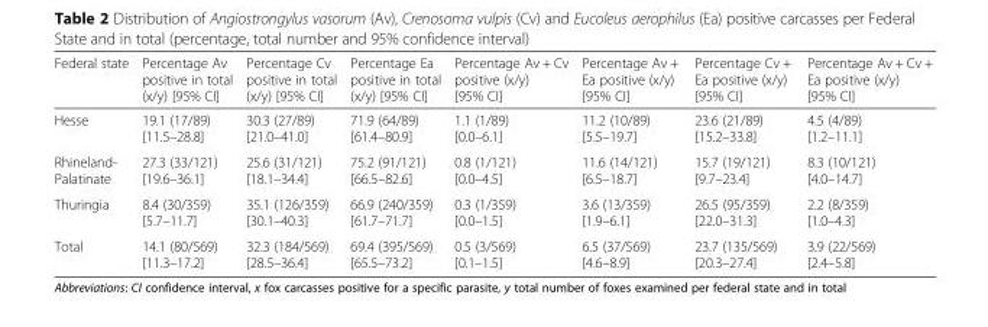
<table><thead><tr><td>Federal state</td><td>Percentage Av positive in total (x/y) [95% CI]</td><td>Percentage Cv positive in total (x/y) [95% CI]</td><td>Percentage Ea positive in total (x/y) [95% CI]</td><td>Percentage Av + Cv positive (x/y) [95% CI]</td><td>Percentage Av + Ea positive (x/y) [95% CI]</td><td>Percentage Cv + Ea positive (x/y) [95% CI]</td><td>Percentage Av + Cv + Ea positive (x/y) [95% CI]</td></tr></thead><tbody><tr><td>Hesse</td><td>19.1 (17/89) [11.5–28.8]</td><td>30.3 (27/89) [21.0–41.0]</td><td>71.9 (64/89) [61.4–80.9]</td><td>1.1 (1/89) [0.0–6.1]</td><td>11.2 (10/89) [5.5–19.7]</td><td>23.6 (21/89) [15.2–33.8]</td><td>4.5 (4/89) [1.2–11.1]</td></tr><tr><td>Rhineland- Palatinate</td><td>27.3 (33/121) [19.6–36.1]</td><td>25.6 (31/121) [18.1–34.4]</td><td>75.2 (91/121) [66.5–82.6]</td><td>0.8 (1/121) [0.0–4.5]</td><td>11.6 (14/121) [6.5–18.7]</td><td>15.7 (19/121) [9.7–23.4]</td><td>8.3 (10/121) [4.0–14.7]</td></tr><tr><td>Thuringia</td><td>8.4 (30/359) [5.7–11.7]</td><td>35.1 (126/359) [30.1–40.3]</td><td>66.9 (240/359) [61.7–71.7]</td><td>0.3 (1/359) [0.0–1.5]</td><td>3.6 (13/359) [1.9–6.1]</td><td>26.5 (95/359) [22.0–31.3]</td><td>2.2 (8/359) [1.0–4.3]</td></tr><tr><td>Total</td><td>14.1 (80/569) [11.3–17.2]</td><td>32.3 (184/569) [28.5–36.4]</td><td>69.4 (395/569) [65.5–73.2]</td><td>0.5 (3/569) [0.1–1.5]</td><td>6.5 (37/569) [4.6–8.9]</td><td>23.7 (135/569) [20.3–27.4]</td><td>3.9 (22/569) [2.4–5.8]</td></tr></tbody></table>